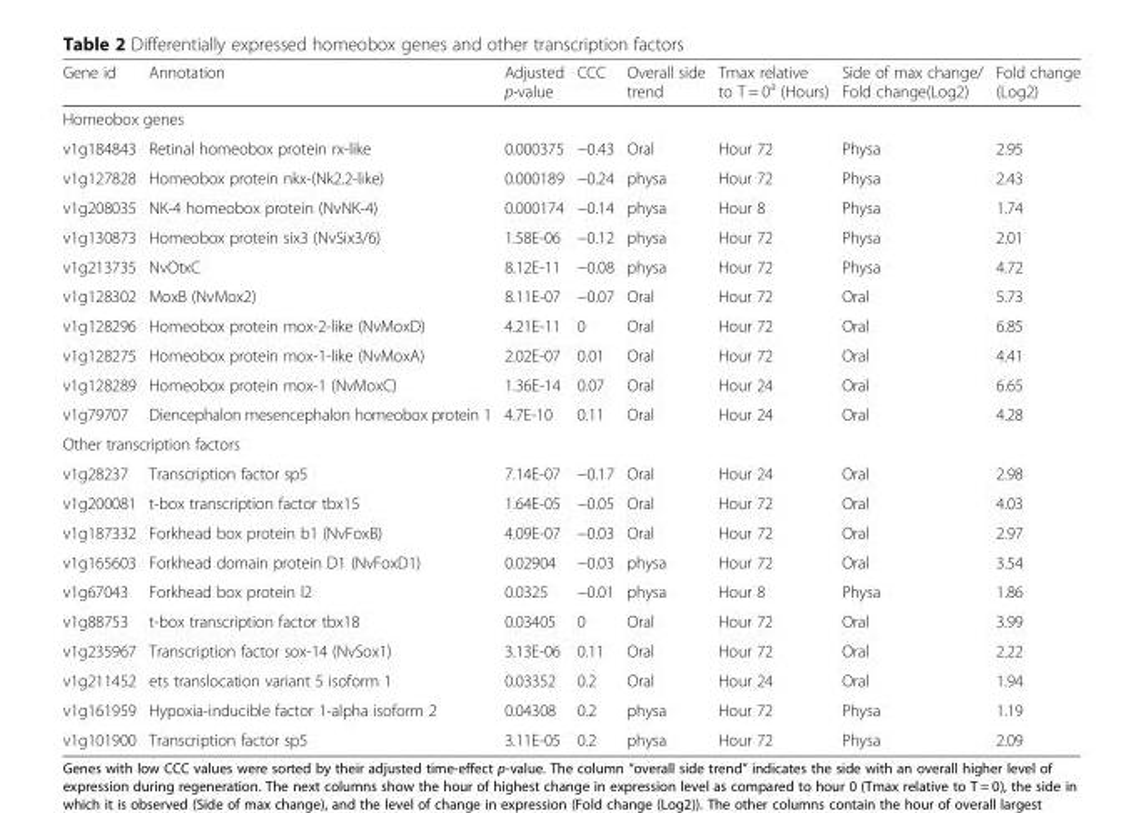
<table><thead><tr><td>Gene id</td><td>Annotation</td><td>Adjusted p-value</td><td>CCC</td><td>Overall side trend</td><td>Tmax relative to T = 0<sup>a</sup> (Hours)</td><td>Side of max change/ Fold change(Log2)</td><td>Fold change (Log2)</td></tr></thead><tbody><tr><td colspan="8">Homeobox genes</td></tr><tr><td>v1g184843</td><td>Retinal homeobox protein rx-like</td><td>0.000375</td><td>−0.43</td><td>Oral</td><td>Hour 72</td><td>Physa</td><td>2.95</td></tr><tr><td>v1g127828</td><td>Homeobox protein nkx-(Nk2.2-like)</td><td>0.000189</td><td>−0.24</td><td>physa</td><td>Hour 72</td><td>Physa</td><td>2.43</td></tr><tr><td>v1g208035</td><td>NK-4 homeobox protein (NvNK-4)</td><td>0.000174</td><td>−0.14</td><td>physa</td><td>Hour 8</td><td>Physa</td><td>1.74</td></tr><tr><td>v1g130873</td><td>Homeobox protein six3 (NvSix3/6)</td><td>1.58E-06</td><td>−0.12</td><td>physa</td><td>Hour 72</td><td>Physa</td><td>2.01</td></tr><tr><td>v1g213735</td><td>NvOtxC</td><td>8.12E-11</td><td>−0.08</td><td>physa</td><td>Hour 72</td><td>Physa</td><td>4.72</td></tr><tr><td>v1g128302</td><td>MoxB (NvMox2)</td><td>8.11E-07</td><td>−0.07</td><td>Oral</td><td>Hour 72</td><td>Oral</td><td>5.73</td></tr><tr><td>v1g128296</td><td>Homeobox protein mox-2-like (NvMoxD)</td><td>4.21E-11</td><td>0</td><td>Oral</td><td>Hour 72</td><td>Oral</td><td>6.85</td></tr><tr><td>v1g128275</td><td>Homeobox protein mox-1-like (NvMoxA)</td><td>2.02E-07</td><td>0.01</td><td>Oral</td><td>Hour 72</td><td>Oral</td><td>4.41</td></tr><tr><td>v1g128289</td><td>Homeobox protein mox-1 (NvMoxC)</td><td>1.36E-14</td><td>0.07</td><td>Oral</td><td>Hour 24</td><td>Oral</td><td>6.65</td></tr><tr><td>v1g79707</td><td>Diencephalon mesencephalon homeobox protein 1</td><td>4.7E-10</td><td>0.11</td><td>Oral</td><td>Hour 24</td><td>Oral</td><td>4.28</td></tr><tr><td colspan="8">Other transcription factors</td></tr><tr><td>v1g28237</td><td>Transcription factor sp5</td><td>7.14E-07</td><td>−0.17</td><td>Oral</td><td>Hour 24</td><td>Oral</td><td>2.98</td></tr><tr><td>v1g200081</td><td>t-box transcription factor tbx15</td><td>1.64E-05</td><td>−0.05</td><td>Oral</td><td>Hour 72</td><td>Oral</td><td>4.03</td></tr><tr><td>v1g187332</td><td>Forkhead box protein b1 (NvFoxB)</td><td>4.09E-07</td><td>−0.03</td><td>Oral</td><td>Hour 72</td><td>Oral</td><td>2.97</td></tr><tr><td>v1g165603</td><td>Forkhead domain protein D1 (NvFoxD1)</td><td>0.02904</td><td>−0.03</td><td>physa</td><td>Hour 72</td><td>Oral</td><td>3.54</td></tr><tr><td>v1g67043</td><td>Forkhead box protein l2</td><td>0.0325</td><td>−0.01</td><td>physa</td><td>Hour 8</td><td>Physa</td><td>1.86</td></tr><tr><td>v1g88753</td><td>t-box transcription factor tbx18</td><td>0.03405</td><td>0</td><td>Oral</td><td>Hour 72</td><td>Oral</td><td>3.99</td></tr><tr><td>v1g235967</td><td>Transcription factor sox-14 (NvSox1)</td><td>3.13E-06</td><td>0.11</td><td>Oral</td><td>Hour 72</td><td>Oral</td><td>2.22</td></tr><tr><td>v1g211452</td><td>ets translocation variant 5 isoform 1</td><td>0.03352</td><td>0.2</td><td>Oral</td><td>Hour 24</td><td>Oral</td><td>1.94</td></tr><tr><td>v1g161959</td><td>Hypoxia-inducible factor 1-alpha isoform 2</td><td>0.04308</td><td>0.2</td><td>physa</td><td>Hour 72</td><td>Physa</td><td>1.19</td></tr><tr><td>v1g101900</td><td>Transcription factor sp5</td><td>3.11E-05</td><td>0.2</td><td>physa</td><td>Hour 72</td><td>Physa</td><td>2.09</td></tr></tbody></table>